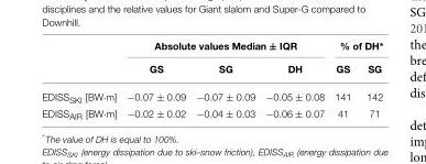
<table><thead><tr><td rowspan="2"></td><td colspan="3">Absolute values Median ± IQR</td><td colspan="2">% of DH*</td></tr><tr><td>GS</td><td>SG</td><td>DH</td><td>GS</td><td>SG</td></tr></thead><tbody><tr><td>EDISS<sub>SKI</sub> [BW·m]</td><td>−0.07 ± 0.09</td><td>−0.07 ± 0.09</td><td>−0.05 ± 0.08</td><td>141</td><td>142</td></tr><tr><td>EDISS<sub>AIR</sub> [BW·m]</td><td>−0.02 ± 0.02</td><td>−0.04 ± 0.03</td><td>−0.06 ± 0.07</td><td>41</td><td>71</td></tr></tbody></table>